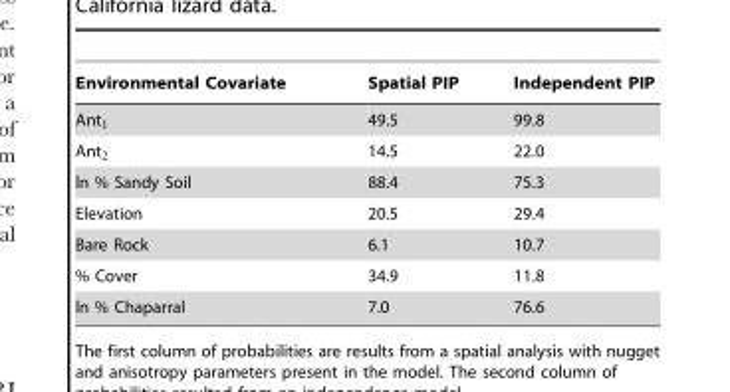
<table><thead><tr><td>Environmental Covariate</td><td>Spatial PIP</td><td>Independent PIP</td></tr></thead><tbody><tr><td>Ant1</td><td>49.5</td><td>99.8</td></tr><tr><td>Ant2</td><td>14.5</td><td>22.0</td></tr><tr><td>ln % Sandy Soil</td><td>88.4</td><td>75.3</td></tr><tr><td>Elevation</td><td>20.5</td><td>29.4</td></tr><tr><td>Bare Rock</td><td>6.1</td><td>10.7</td></tr><tr><td>% Cover</td><td>34.9</td><td>11.8</td></tr><tr><td>ln % Chaparral</td><td>7.0</td><td>76.6</td></tr></tbody></table>